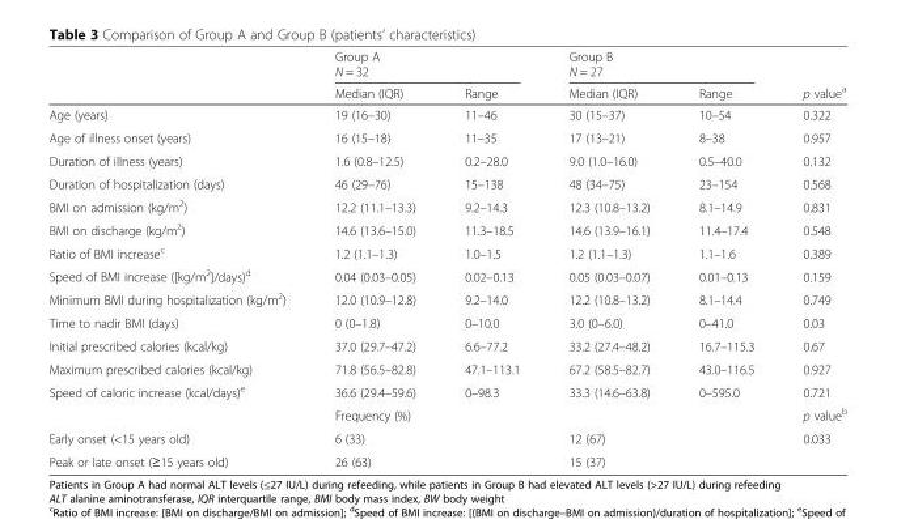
<table><thead><tr><td rowspan="3"></td><td rowspan="2" colspan="2">Group A N = 32</td><td rowspan="2" colspan="2">Group B N = 27</td><td rowspan="3">p value<sup>a</sup></td></tr><tr></tr><tr><td>Median (IQR)</td><td>Range</td><td>Median (IQR)</td><td>Range</td></tr></thead><tbody><tr><td>Age (years)</td><td>19 (16–30)</td><td>11–46</td><td>30 (15–37)</td><td>10–54</td><td>0.322</td></tr><tr><td>Age of illness onset (years)</td><td>16 (15–18)</td><td>11–35</td><td>17 (13–21)</td><td>8–38</td><td>0.957</td></tr><tr><td>Duration of illness (years)</td><td>1.6 (0.8–12.5)</td><td>0.2–28.0</td><td>9.0 (1.0–16.0)</td><td>0.5–40.0</td><td>0.132</td></tr><tr><td>Duration of hospitalization (days)</td><td>46 (29–76)</td><td>15–138</td><td>48 (34–75)</td><td>23–154</td><td>0.568</td></tr><tr><td>BMI on admission (kg/m<sup>2</sup>)</td><td>12.2 (11.1–13.3)</td><td>9.2–14.3</td><td>12.3 (10.8–13.2)</td><td>8.1–14.9</td><td>0.831</td></tr><tr><td>BMI on discharge (kg/m<sup>2</sup>)</td><td>14.6 (13.6–15.0)</td><td>11.3–18.5</td><td>14.6 (13.9–16.1)</td><td>11.4–17.4</td><td>0.548</td></tr><tr><td>Ratio of BMI increase<sup>c</sup></td><td>1.2 (1.1–1.3)</td><td>1.0–1.5</td><td>1.2 (1.1–1.3)</td><td>1.1–1.6</td><td>0.389</td></tr><tr><td>Speed of BMI increase ([kg/m<sup>2</sup>]/days)<sup>d</sup></td><td>0.04 (0.03–0.05)</td><td>0.02–0.13</td><td>0.05 (0.03–0.07)</td><td>0.01–0.13</td><td>0.159</td></tr><tr><td>Minimum BMI during hospitalization (kg/m<sup>2</sup>)</td><td>12.0 (10.9–12.8)</td><td>9.2–14.0</td><td>12.2 (10.8–13.2)</td><td>8.1–14.4</td><td>0.749</td></tr><tr><td>Time to nadir BMI (days)</td><td>0 (0–1.8)</td><td>0–10.0</td><td>3.0 (0–6.0)</td><td>0–41.0</td><td>0.03</td></tr><tr><td>Initial prescribed calories (kcal/kg)</td><td>37.0 (29.7–47.2)</td><td>6.6–77.2</td><td>33.2 (27.4–48.2)</td><td>16.7–115.3</td><td>0.67</td></tr><tr><td>Maximum prescribed calories (kcal/kg)</td><td>71.8 (56.5–82.8)</td><td>47.1–113.1</td><td>67.2 (58.5–82.7)</td><td>43.0–116.5</td><td>0.927</td></tr><tr><td rowspan="2">Speed of caloric increase (kcal/days)<sup>e</sup></td><td>36.6 (29.4–59.6)</td><td>0–98.3</td><td>33.3 (14.6–63.8)</td><td>0–595.0</td><td>0.721</td></tr><tr><td colspan="4">Frequency (%)</td><td>p value<sup>b</sup></td></tr><tr><td>Early onset (&lt;15 years old)</td><td colspan="2">6 (33)</td><td colspan="2">12 (67)</td><td>0.033</td></tr><tr><td>Peak or late onset (≥15 years old)</td><td colspan="2">26 (63)</td><td colspan="2">15 (37)</td><td></td></tr></tbody></table>